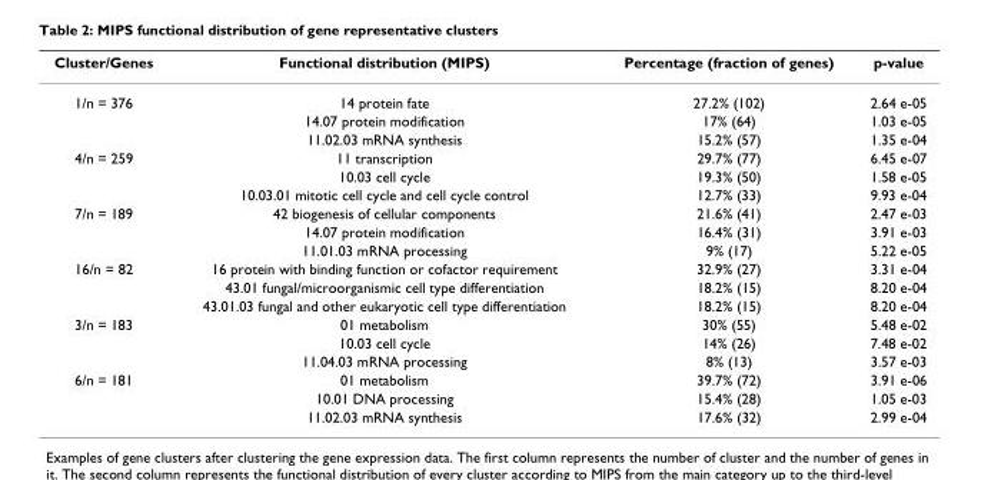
<table><thead><tr><td>Cluster/Genes</td><td>Functional distribution (MIPS)</td><td>Percentage (fraction of genes)</td><td>p-value</td></tr></thead><tbody><tr><td rowspan="3">1/n = 376</td><td>14 protein fate</td><td>27.2% (102)</td><td>2.64 e-05</td></tr><tr><td>14.07 protein modification</td><td>17% (64)</td><td>1.03 e-05</td></tr><tr><td>11.02.03 mRNA synthesis</td><td>15.2% (57)</td><td>1.35 e-04</td></tr><tr><td rowspan="3">4/n = 259</td><td>11 transcription</td><td>29.7% (77)</td><td>6.45 e-07</td></tr><tr><td>10.03 cell cycle</td><td>19.3% (50)</td><td>1.58 e-05</td></tr><tr><td>10.03.01 mitotic cell cycle and cell cycle control</td><td>12.7% (33)</td><td>9.93 e-04</td></tr><tr><td rowspan="3">7/n = 189</td><td>42 biogenesis of cellular components</td><td>21.6% (41)</td><td>2.47 e-03</td></tr><tr><td>14.07 protein modification</td><td>16.4% (31)</td><td>3.91 e-03</td></tr><tr><td>11.01.03 mRNA processing</td><td>9% (17)</td><td>5.22 e-05</td></tr><tr><td rowspan="3">16/n = 82</td><td>16 protein with binding function or cofactor requirement</td><td>32.9% (27)</td><td>3.31 e-04</td></tr><tr><td>43.01 fungal/microorganismic cell type differentiation</td><td>18.2% (15)</td><td>8.20 e-04</td></tr><tr><td>43.01.03 fungal and other eukaryotic cell type differentiation</td><td>18.2% (15)</td><td>8.20 e-04</td></tr><tr><td rowspan="3">3/n = 183</td><td>01 metabolism</td><td>30% (55)</td><td>5.48 e-02</td></tr><tr><td>10.03 cell cycle</td><td>14% (26)</td><td>7.48 e-02</td></tr><tr><td>11.04.03 mRNA processing</td><td>8% (13)</td><td>3.57 e-03</td></tr><tr><td rowspan="3">6/n = 181</td><td>01 metabolism</td><td>39.7% (72)</td><td>3.91 e-06</td></tr><tr><td>10.01 DNA processing</td><td>15.4% (28)</td><td>1.05 e-03</td></tr><tr><td>11.02.03 mRNA synthesis</td><td>17.6% (32)</td><td>2.99 e-04</td></tr></tbody></table>